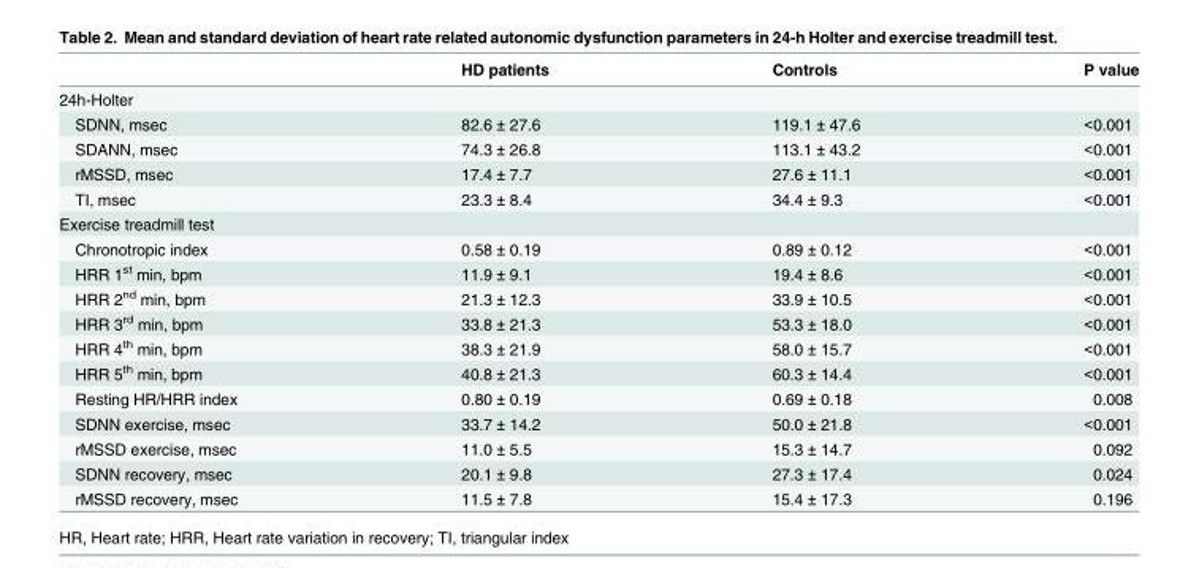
<table><thead><tr><td></td><td>HD patients</td><td>Controls</td><td>P value</td></tr></thead><tbody><tr><td colspan="4">24h-Holter</td></tr><tr><td>SDNN, msec</td><td>82.6 ± 27.6</td><td>119.1 ± 47.6</td><td>&lt;0.001</td></tr><tr><td>SDANN, msec</td><td>74.3 ± 26.8</td><td>113.1 ± 43.2</td><td>&lt;0.001</td></tr><tr><td>rMSSD, msec</td><td>17.4 ± 7.7</td><td>27.6 ± 11.1</td><td>&lt;0.001</td></tr><tr><td>TI, msec</td><td>23.3 ± 8.4</td><td>34.4 ± 9.3</td><td>&lt;0.001</td></tr><tr><td colspan="4">Exercise treadmill test</td></tr><tr><td>Chronotropic index</td><td>0.58 ± 0.19</td><td>0.89 ± 0.12</td><td>&lt;0.001</td></tr><tr><td>HRR 1<sup>st</sup> min, bpm</td><td>11.9 ± 9.1</td><td>19.4 ± 8.6</td><td>&lt;0.001</td></tr><tr><td>HRR 2<sup>nd</sup> min, bpm</td><td>21.3 ± 12.3</td><td>33.9 ± 10.5</td><td>&lt;0.001</td></tr><tr><td>HRR 3<sup>rd</sup> min, bpm</td><td>33.8 ± 21.3</td><td>53.3 ± 18.0</td><td>&lt;0.001</td></tr><tr><td>HRR 4<sup>th</sup> min, bpm</td><td>38.3 ± 21.9</td><td>58.0 ± 15.7</td><td>&lt;0.001</td></tr><tr><td>HRR 5<sup>th</sup> min, bpm</td><td>40.8 ± 21.3</td><td>60.3 ± 14.4</td><td>&lt;0.001</td></tr><tr><td>Resting HR/HRR index</td><td>0.80 ± 0.19</td><td>0.69 ± 0.18</td><td>0.008</td></tr><tr><td>SDNN exercise, msec</td><td>33.7 ± 14.2</td><td>50.0 ± 21.8</td><td>&lt;0.001</td></tr><tr><td>rMSSD exercise, msec</td><td>11.0 ± 5.5</td><td>15.3 ± 14.7</td><td>0.092</td></tr><tr><td>SDNN recovery, msec</td><td>20.1 ± 9.8</td><td>27.3 ± 17.4</td><td>0.024</td></tr><tr><td>rMSSD recovery, msec</td><td>11.5 ± 7.8</td><td>15.4 ± 17.3</td><td>0.196</td></tr></tbody></table>